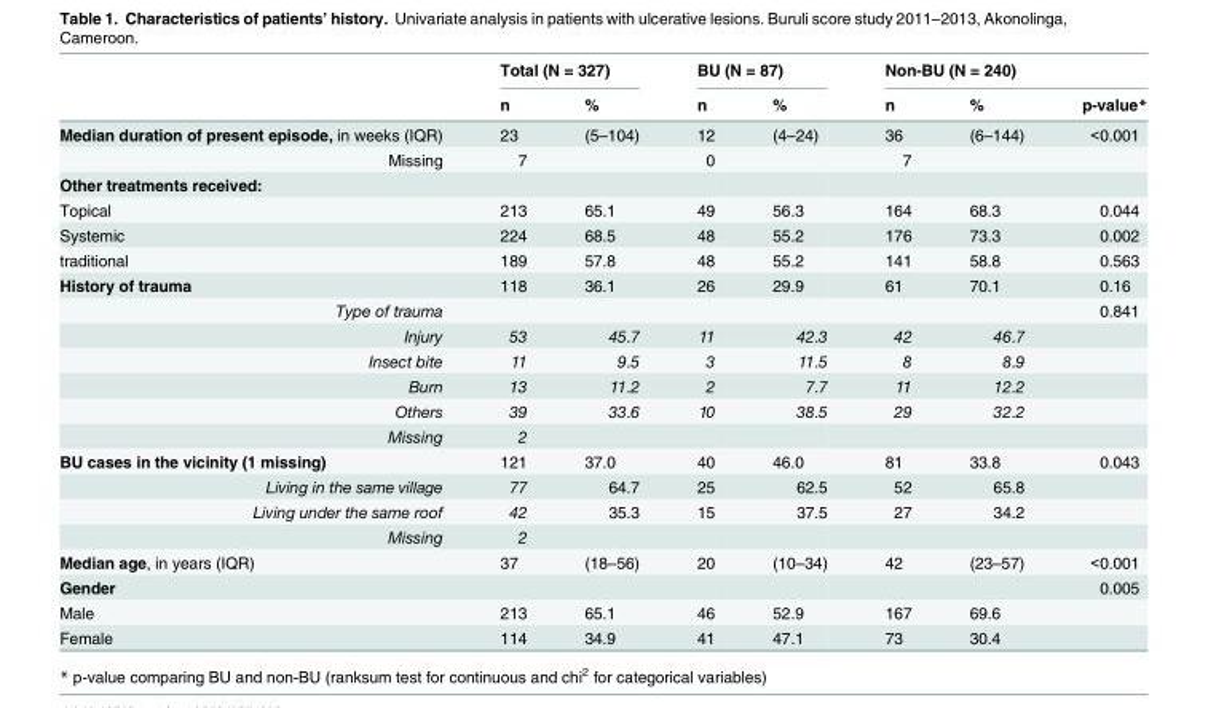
<table><thead><tr><td rowspan="2"></td><td colspan="2">Total (N = 327)</td><td colspan="2">BU (N = 87)</td><td colspan="3">Non-BU (N = 240)</td></tr><tr><td>n</td><td>%</td><td>n</td><td>%</td><td>n</td><td>%</td><td>p-value*</td></tr></thead><tbody><tr><td>Median duration of present episode, in weeks (IQR)</td><td>23</td><td>(5–104)</td><td>12</td><td>(4–24)</td><td>36</td><td>(6–144)</td><td>&lt;0.001</td></tr><tr><td>Missing</td><td>7</td><td></td><td>0</td><td></td><td>7</td><td></td><td></td></tr><tr><td colspan="8">Other treatments received:</td></tr><tr><td>Topical</td><td>213</td><td>65.1</td><td>49</td><td>56.3</td><td>164</td><td>68.3</td><td>0.044</td></tr><tr><td>Systemic</td><td>224</td><td>68.5</td><td>48</td><td>55.2</td><td>176</td><td>73.3</td><td>0.002</td></tr><tr><td>traditional</td><td>189</td><td>57.8</td><td>48</td><td>55.2</td><td>141</td><td>58.8</td><td>0.563</td></tr><tr><td>History of trauma</td><td>118</td><td>36.1</td><td>26</td><td>29.9</td><td>61</td><td>70.1</td><td>0.16</td></tr><tr><td>Type of trauma</td><td></td><td></td><td></td><td></td><td></td><td></td><td>0.841</td></tr><tr><td>Injury</td><td>53</td><td>45.7</td><td>11</td><td>42.3</td><td>42</td><td>46.7</td><td></td></tr><tr><td>Insect bite</td><td>11</td><td>9.5</td><td>3</td><td>11.5</td><td>8</td><td>8.9</td><td></td></tr><tr><td>Burn</td><td>13</td><td>11.2</td><td>2</td><td>7.7</td><td>11</td><td>12.2</td><td></td></tr><tr><td>Others</td><td>39</td><td>33.6</td><td>10</td><td>38.5</td><td>29</td><td>32.2</td><td></td></tr><tr><td>Missing</td><td>2</td><td></td><td></td><td></td><td></td><td></td><td></td></tr><tr><td>BU cases in the vicinity (1 missing)</td><td>121</td><td>37.0</td><td>40</td><td>46.0</td><td>81</td><td>33.8</td><td>0.043</td></tr><tr><td>Living in the same village</td><td>77</td><td>64.7</td><td>25</td><td>62.5</td><td>52</td><td>65.8</td><td></td></tr><tr><td>Living under the same roof</td><td>42</td><td>35.3</td><td>15</td><td>37.5</td><td>27</td><td>34.2</td><td></td></tr><tr><td>Missing</td><td>2</td><td></td><td></td><td></td><td></td><td></td><td></td></tr><tr><td>Median age, in years (IQR)</td><td>37</td><td>(18–56)</td><td>20</td><td>(10–34)</td><td>42</td><td>(23–57)</td><td>&lt;0.001</td></tr><tr><td>Gender</td><td></td><td></td><td></td><td></td><td></td><td></td><td>0.005</td></tr><tr><td>Male</td><td>213</td><td>65.1</td><td>46</td><td>52.9</td><td>167</td><td>69.6</td><td></td></tr><tr><td>Female</td><td>114</td><td>34.9</td><td>41</td><td>47.1</td><td>73</td><td>30.4</td><td></td></tr></tbody></table>